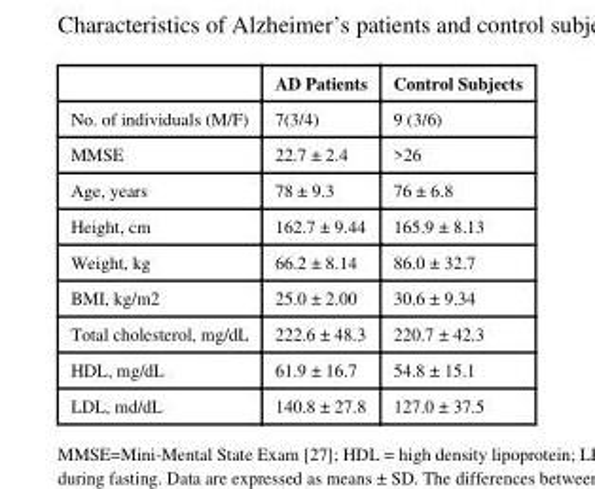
<table><thead><tr><td></td><td>AD Patients</td><td>Control Subjects</td></tr></thead><tbody><tr><td>No. of individuals (M/F)</td><td>7(3/4)</td><td>9 (3/6)</td></tr><tr><td>MMSE</td><td>22.7 ± 2.4</td><td>&gt;26</td></tr><tr><td>Age, years</td><td>78 ± 9.3</td><td>76 ± 6.8</td></tr><tr><td>Height, cm</td><td>162.7 ± 9.44</td><td>165.9 ± 8.13</td></tr><tr><td>Weight, kg</td><td>66.2 ± 8.14</td><td>86.0 ± 32.7</td></tr><tr><td>BMI, kg/m2</td><td>25.0 ± 2.00</td><td>30.6 ± 9.34</td></tr><tr><td>Total cholesterol, mg/dL</td><td>222.6 ± 48.3</td><td>220.7 ± 42.3</td></tr><tr><td>HDL, mg/dL</td><td>61.9 ± 16.7</td><td>54.8 ± 15.1</td></tr><tr><td>LDL, md/dL</td><td>140.8 ± 27.8</td><td>127.0 ± 37.5</td></tr></tbody></table>